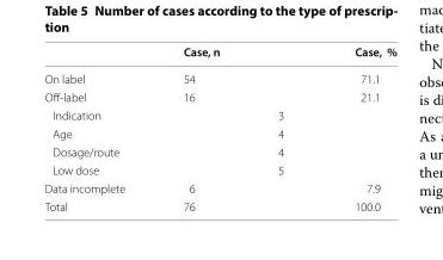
<table><thead><tr><td></td><td>Case, n</td><td></td><td>Case, %</td></tr></thead><tbody><tr><td>On label</td><td>54</td><td></td><td>71.1</td></tr><tr><td>Off-label</td><td>16</td><td></td><td>21.1</td></tr><tr><td>Indication</td><td></td><td>3</td><td></td></tr><tr><td>Age</td><td></td><td>4</td><td></td></tr><tr><td>Dosage/route</td><td></td><td>4</td><td></td></tr><tr><td>Low dose</td><td></td><td>5</td><td></td></tr><tr><td>Data incomplete</td><td>6</td><td></td><td>7.9</td></tr><tr><td>Total</td><td>76</td><td></td><td>100.0</td></tr></tbody></table>